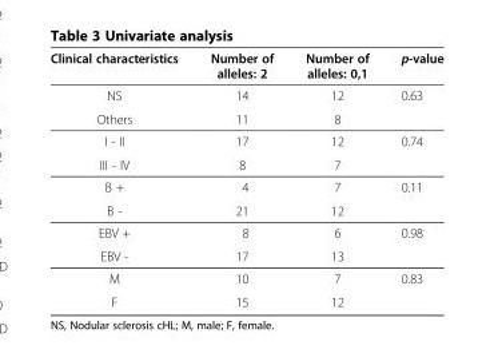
<table><thead><tr><td>Clinical characteristics</td><td>Number of alleles: 2</td><td>Number of alleles: 0,1</td><td>p-value</td></tr></thead><tbody><tr><td>NS</td><td>14</td><td>12</td><td>0.63</td></tr><tr><td>Others</td><td>11</td><td>8</td><td></td></tr><tr><td>I - II</td><td>17</td><td>12</td><td>0.74</td></tr><tr><td>III - IV</td><td>8</td><td>7</td><td></td></tr><tr><td>B +</td><td>4</td><td>7</td><td>0.11</td></tr><tr><td>B -</td><td>21</td><td>12</td><td></td></tr><tr><td>EBV +</td><td>8</td><td>6</td><td>0.98</td></tr><tr><td>EBV -</td><td>17</td><td>13</td><td></td></tr><tr><td>M</td><td>10</td><td>7</td><td>0.83</td></tr><tr><td>F</td><td>15</td><td>12</td><td></td></tr></tbody></table>